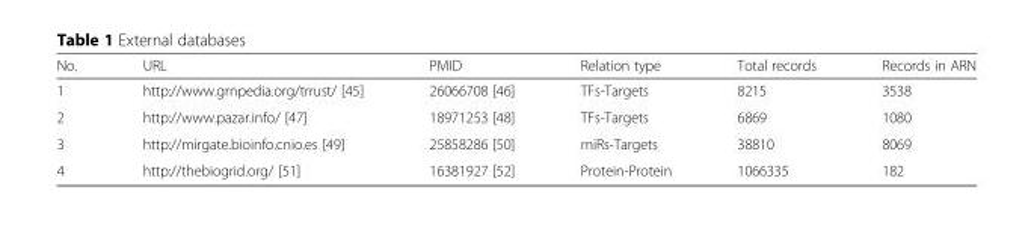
<table><thead><tr><td>No.</td><td>URL</td><td>PMID</td><td>Relation type</td><td>Total records</td><td>Records in ARN</td></tr></thead><tbody><tr><td>1</td><td>http://www.grnpedia.org/trrust/ [45]</td><td>26066708 [46]</td><td>TFs-Targets</td><td>8215</td><td>3538</td></tr><tr><td>2</td><td>http://www.pazar.info/ [47]</td><td>18971253 [48]</td><td>TFs-Targets</td><td>6869</td><td>1080</td></tr><tr><td>3</td><td>http://mirgate.bioinfo.cnio.es [49]</td><td>25858286 [50]</td><td>miRs-Targets</td><td>38810</td><td>8069</td></tr><tr><td>4</td><td>http://thebiogrid.org/ [51]</td><td>16381927 [52]</td><td>Protein-Protein</td><td>1066335</td><td>182</td></tr></tbody></table>